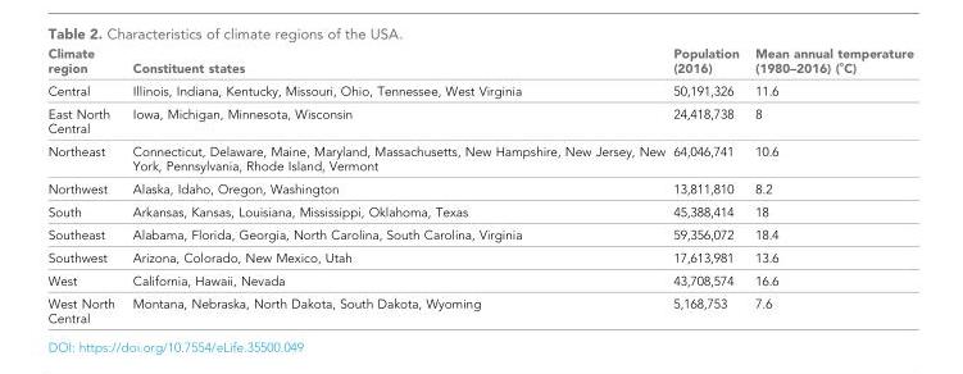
<table><thead><tr><td>Climate region</td><td>Constituent states</td><td>Population (2016)</td><td>Mean annual temperature (1980–2016) (˚C)</td></tr></thead><tbody><tr><td>Central</td><td>Illinois, Indiana, Kentucky, Missouri, Ohio, Tennessee, West Virginia</td><td>50,191,326</td><td>11.6</td></tr><tr><td>East North Central</td><td>Iowa, Michigan, Minnesota, Wisconsin</td><td>24,418,738</td><td>8</td></tr><tr><td>Northeast</td><td>Connecticut, Delaware, Maine, Maryland, Massachusetts, New Hampshire, New Jersey, New York, Pennsylvania, Rhode Island, Vermont</td><td>64,046,741</td><td>10.6</td></tr><tr><td>Northwest</td><td>Alaska, Idaho, Oregon, Washington</td><td>13,811,810</td><td>8.2</td></tr><tr><td>South</td><td>Arkansas, Kansas, Louisiana, Mississippi, Oklahoma, Texas</td><td>45,388,414</td><td>18</td></tr><tr><td>Southeast</td><td>Alabama, Florida, Georgia, North Carolina, South Carolina, Virginia</td><td>59,356,072</td><td>18.4</td></tr><tr><td>Southwest</td><td>Arizona, Colorado, New Mexico, Utah</td><td>17,613,981</td><td>13.6</td></tr><tr><td>West</td><td>California, Hawaii, Nevada</td><td>43,708,574</td><td>16.6</td></tr><tr><td>West North Central</td><td>Montana, Nebraska, North Dakota, South Dakota, Wyoming</td><td>5,168,753</td><td>7.6</td></tr></tbody></table>